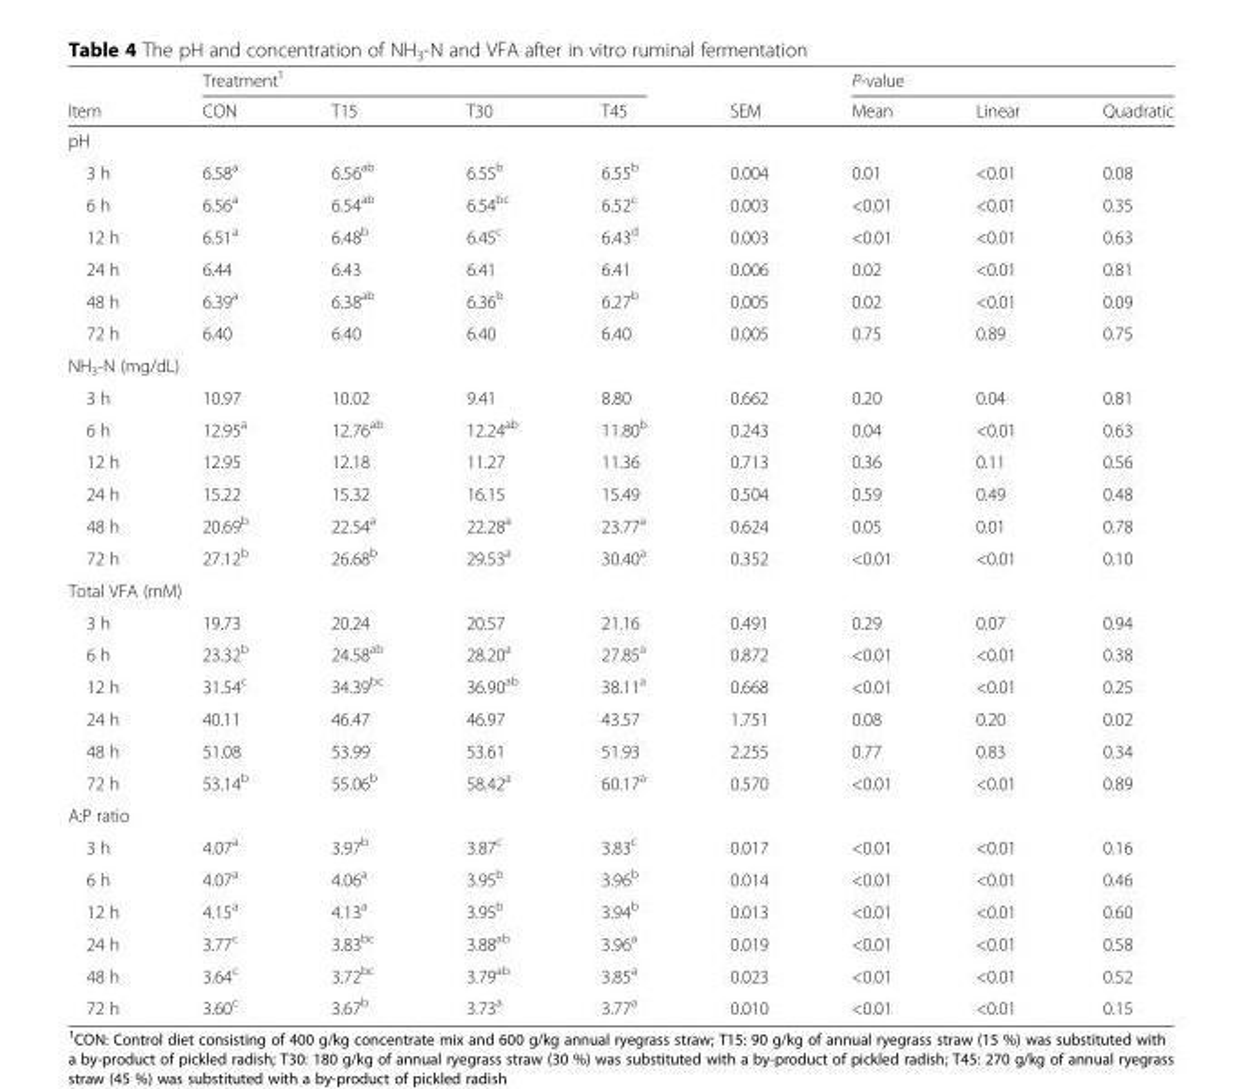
<table><thead><tr><td rowspan="2">Item</td><td colspan="4">Treatment<sup>1</sup></td><td rowspan="2">SEM</td><td colspan="3">P-value</td></tr><tr><td>CON</td><td>T15</td><td>T30</td><td>T45</td><td>Mean</td><td>Linear</td><td>Quadratic</td></tr></thead><tbody><tr><td colspan="9">pH</td></tr><tr><td>3 h</td><td>6.58<sup>a</sup></td><td>6.56<sup>ab</sup></td><td>6.55<sup>b</sup></td><td>6.55<sup>b</sup></td><td>0.004</td><td>0.01</td><td>&lt;0.01</td><td>0.08</td></tr><tr><td>6 h</td><td>6.56<sup>a</sup></td><td>6.54<sup>ab</sup></td><td>6.54<sup>bc</sup></td><td>6.52<sup>c</sup></td><td>0.003</td><td>&lt;0.01</td><td>&lt;0.01</td><td>0.35</td></tr><tr><td>12 h</td><td>6.51<sup>a</sup></td><td>6.48<sup>b</sup></td><td>6.45<sup>c</sup></td><td>6.43<sup>d</sup></td><td>0.003</td><td>&lt;0.01</td><td>&lt;0.01</td><td>0.63</td></tr><tr><td>24 h</td><td>6.44</td><td>6.43</td><td>6.41</td><td>6.41</td><td>0.006</td><td>0.02</td><td>&lt;0.01</td><td>0.81</td></tr><tr><td>48 h</td><td>6.39<sup>a</sup></td><td>6.38<sup>ab</sup></td><td>6.36<sup>b</sup></td><td>6.27<sup>b</sup></td><td>0.005</td><td>0.02</td><td>&lt;0.01</td><td>0.09</td></tr><tr><td>72 h</td><td>6.40</td><td>6.40</td><td>6.40</td><td>6.40</td><td>0.005</td><td>0.75</td><td>0.89</td><td>0.75</td></tr><tr><td colspan="9">NH<sub>3</sub>-N (mg/dL)</td></tr><tr><td>3 h</td><td>10.97</td><td>10.02</td><td>9.41</td><td>8.80</td><td>0.662</td><td>0.20</td><td>0.04</td><td>0.81</td></tr><tr><td>6 h</td><td>12.95<sup>a</sup></td><td>12.76<sup>ab</sup></td><td>12.24<sup>ab</sup></td><td>11.80<sup>b</sup></td><td>0.243</td><td>0.04</td><td>&lt;0.01</td><td>0.63</td></tr><tr><td>12 h</td><td>12.95</td><td>12.18</td><td>11.27</td><td>11.36</td><td>0.713</td><td>0.36</td><td>0.11</td><td>0.56</td></tr><tr><td>24 h</td><td>15.22</td><td>15.32</td><td>16.15</td><td>15.49</td><td>0.504</td><td>0.59</td><td>0.49</td><td>0.48</td></tr><tr><td>48 h</td><td>20.69<sup>b</sup></td><td>22.54<sup>a</sup></td><td>22.28<sup>a</sup></td><td>23.77<sup>a</sup></td><td>0.624</td><td>0.05</td><td>0.01</td><td>0.78</td></tr><tr><td>72 h</td><td>27.12<sup>b</sup></td><td>26.68<sup>b</sup></td><td>29.53<sup>a</sup></td><td>30.40<sup>a</sup></td><td>0.352</td><td>&lt;0.01</td><td>&lt;0.01</td><td>0.10</td></tr><tr><td colspan="9">Total VFA (mM)</td></tr><tr><td>3 h</td><td>19.73</td><td>20.24</td><td>20.57</td><td>21.16</td><td>0.491</td><td>0.29</td><td>0.07</td><td>0.94</td></tr><tr><td>6 h</td><td>23.32<sup>b</sup></td><td>24.58<sup>ab</sup></td><td>28.20<sup>a</sup></td><td>27.85<sup>a</sup></td><td>0.872</td><td>&lt;0.01</td><td>&lt;0.01</td><td>0.38</td></tr><tr><td>12 h</td><td>31.54<sup>c</sup></td><td>34.39<sup>bc</sup></td><td>36.90<sup>ab</sup></td><td>38.11<sup>a</sup></td><td>0.668</td><td>&lt;0.01</td><td>&lt;0.01</td><td>0.25</td></tr><tr><td>24 h</td><td>40.11</td><td>46.47</td><td>46.97</td><td>43.57</td><td>1.751</td><td>0.08</td><td>0.20</td><td>0.02</td></tr><tr><td>48 h</td><td>51.08</td><td>53.99</td><td>53.61</td><td>51.93</td><td>2.255</td><td>0.77</td><td>0.83</td><td>0.34</td></tr><tr><td>72 h</td><td>53.14<sup>b</sup></td><td>55.06<sup>b</sup></td><td>58.42<sup>a</sup></td><td>60.17<sup>a</sup></td><td>0.570</td><td>&lt;0.01</td><td>&lt;0.01</td><td>0.89</td></tr><tr><td colspan="9">A:P ratio</td></tr><tr><td>3 h</td><td>4.07<sup>a</sup></td><td>3.97<sup>b</sup></td><td>3.87<sup>c</sup></td><td>3.83<sup>c</sup></td><td>0.017</td><td>&lt;0.01</td><td>&lt;0.01</td><td>0.16</td></tr><tr><td>6 h</td><td>4.07<sup>a</sup></td><td>4.06<sup>a</sup></td><td>3.95<sup>b</sup></td><td>3.96<sup>b</sup></td><td>0.014</td><td>&lt;0.01</td><td>&lt;0.01</td><td>0.46</td></tr><tr><td>12 h</td><td>4.15<sup>a</sup></td><td>4.13<sup>a</sup></td><td>3.95<sup>b</sup></td><td>3.94<sup>b</sup></td><td>0.013</td><td>&lt;0.01</td><td>&lt;0.01</td><td>0.60</td></tr><tr><td>24 h</td><td>3.77<sup>c</sup></td><td>3.83<sup>bc</sup></td><td>3.88<sup>ab</sup></td><td>3.96<sup>a</sup></td><td>0.019</td><td>&lt;0.01</td><td>&lt;0.01</td><td>0.58</td></tr><tr><td>48 h</td><td>3.64<sup>c</sup></td><td>3.72<sup>bc</sup></td><td>3.79<sup>ab</sup></td><td>3.85<sup>a</sup></td><td>0.023</td><td>&lt;0.01</td><td>&lt;0.01</td><td>0.52</td></tr><tr><td>72 h</td><td>3.60<sup>c</sup></td><td>3.67<sup>b</sup></td><td>3.73<sup>a</sup></td><td>3.77<sup>a</sup></td><td>0.010</td><td>&lt;0.01</td><td>&lt;0.01</td><td>0.15</td></tr></tbody></table>